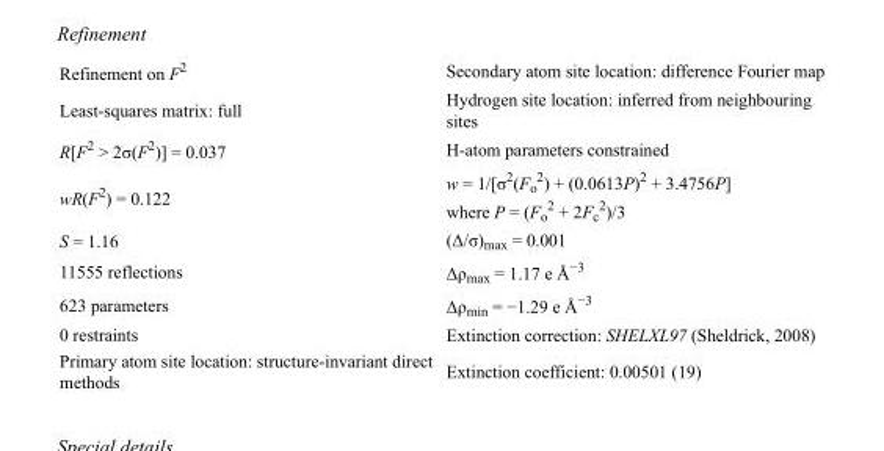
<table><tbody><tr><td>Refinement on F<sup>2</sup></td><td>Secondary atom site location: difference Fourier map</td></tr><tr><td>Least-squares matrix: full</td><td>Hydrogen site location: inferred from neighbouring sites</td></tr><tr><td>R[F<sup>2</sup> &gt; 2σ(F<sup>2</sup>)] = 0.037</td><td>H-atom parameters constrained</td></tr><tr><td>wR(F<sup>2</sup>) = 0.122</td><td>w = 1/[σ<sup>2</sup>(F<sub>o</sub> <sup>2</sup>) + (0.0613P)<sup>2</sup> + 3.4756P] where P = (F<sub>o</sub> <sup>2</sup> + 2F<sub>c</sub> <sup>2</sup>)/3</td></tr><tr><td>S = 1.16</td><td>(Δ/σ)<sub>max</sub> = 0.001</td></tr><tr><td>11555 reflections</td><td>Δρ<sub>max</sub> = 1.17 e Å<sup>−3</sup></td></tr><tr><td>623 parameters</td><td>Δρ<sub>min</sub> = −1.29 e Å<sup>−3</sup></td></tr><tr><td>0 restraints</td><td>Extinction correction: SHELXL97 (Sheldrick, 2008)</td></tr><tr><td>Primary atom site location: structure-invariant direct methods</td><td>Extinction coefficient: 0.00501 (19)</td></tr></tbody></table>